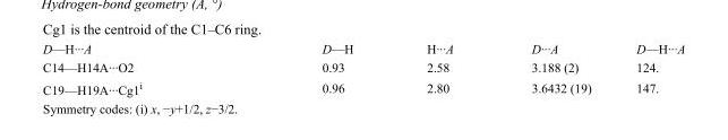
<table><tbody><tr><td>D—H···A</td><td>D—H</td><td>H···A</td><td>D···A</td><td>D—H···A</td></tr><tr><td>C14—H14A···O2</td><td>0.93</td><td>2.58</td><td>3.188 (2)</td><td>124.</td></tr><tr><td>C19—H19A···Cg1<sup>i</sup></td><td>0.96</td><td>2.80</td><td>3.6432 (19)</td><td>147.</td></tr></tbody></table>